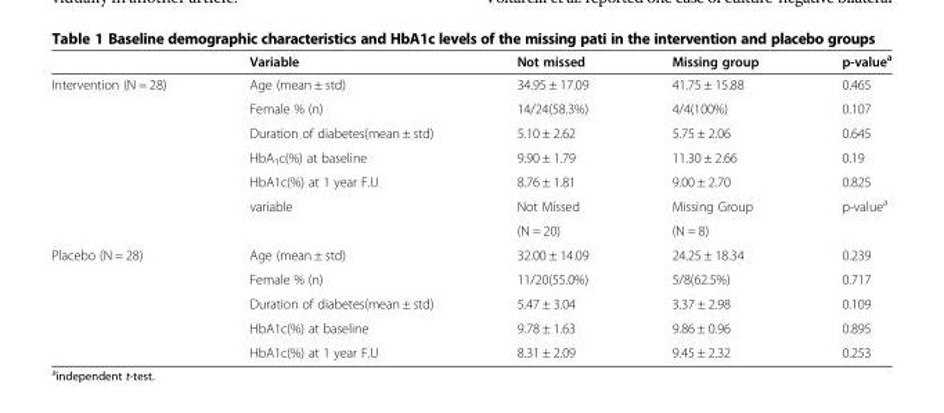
<table><thead><tr><td></td><td>Variable</td><td>Not missed</td><td>Missing group</td><td>p-value<sup>a</sup></td></tr></thead><tbody><tr><td rowspan="7">Intervention (N = 28)</td><td>Age (mean ± std)</td><td>34.95 ± 17.09</td><td>41.75 ± 15.88</td><td>0.465</td></tr><tr><td>Female % (n)</td><td>14/24(58.3%)</td><td>4/4(100%)</td><td>0.107</td></tr><tr><td>Duration of diabetes(mean ± std)</td><td>5.10 ± 2.62</td><td>5.75 ± 2.06</td><td>0.645</td></tr><tr><td>HbA<sub>1</sub>c(%) at baseline</td><td>9.90 ± 1.79</td><td>11.30 ± 2.66</td><td>0.19</td></tr><tr><td>HbA1c(%) at 1 year F.U</td><td>8.76 ± 1.81</td><td>9.00 ± 2.70</td><td>0.825</td></tr><tr><td>variable</td><td>Not Missed</td><td>Missing Group</td><td>p-value<sup>a</sup></td></tr><tr><td></td><td>(N = 20)</td><td>(N = 8)</td><td></td></tr><tr><td rowspan="5">Placebo (N = 28)</td><td>Age (mean ± std)</td><td>32.00 ± 14.09</td><td>24.25 ± 18.34</td><td>0.239</td></tr><tr><td>Female % (n)</td><td>11/20(55.0%)</td><td>5/8(62.5%)</td><td>0.717</td></tr><tr><td>Duration of diabetes(mean ± std)</td><td>5.47 ± 3.04</td><td>3.37 ± 2.98</td><td>0.109</td></tr><tr><td>HbA1c(%) at baseline</td><td>9.78 ± 1.63</td><td>9.86 ± 0.96</td><td>0.895</td></tr><tr><td>HbA1c(%) at 1 year F.U</td><td>8.31 ± 2.09</td><td>9.45 ± 2.32</td><td>0.253</td></tr></tbody></table>